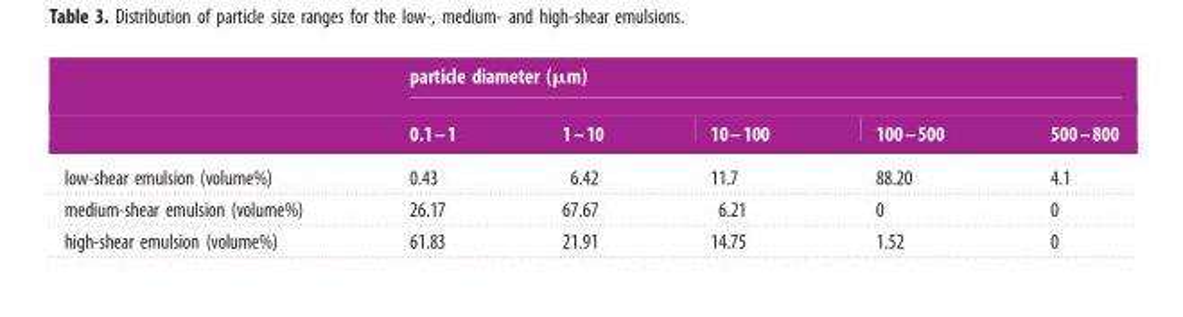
<table><thead><tr><td rowspan="2"></td><td colspan="5">particle diameter (µm)</td></tr><tr><td>0.1–1</td><td>1–10</td><td>10–100</td><td>100–500</td><td>500–800</td></tr></thead><tbody><tr><td>low-shear emulsion (volume%)</td><td>0.43</td><td>6.42</td><td>11.7</td><td>88.20</td><td>4.1</td></tr><tr><td>medium-shear emulsion (volume%)</td><td>26.17</td><td>67.67</td><td>6.21</td><td>0</td><td>0</td></tr><tr><td>high-shear emulsion (volume%)</td><td>61.83</td><td>21.91</td><td>14.75</td><td>1.52</td><td>0</td></tr></tbody></table>